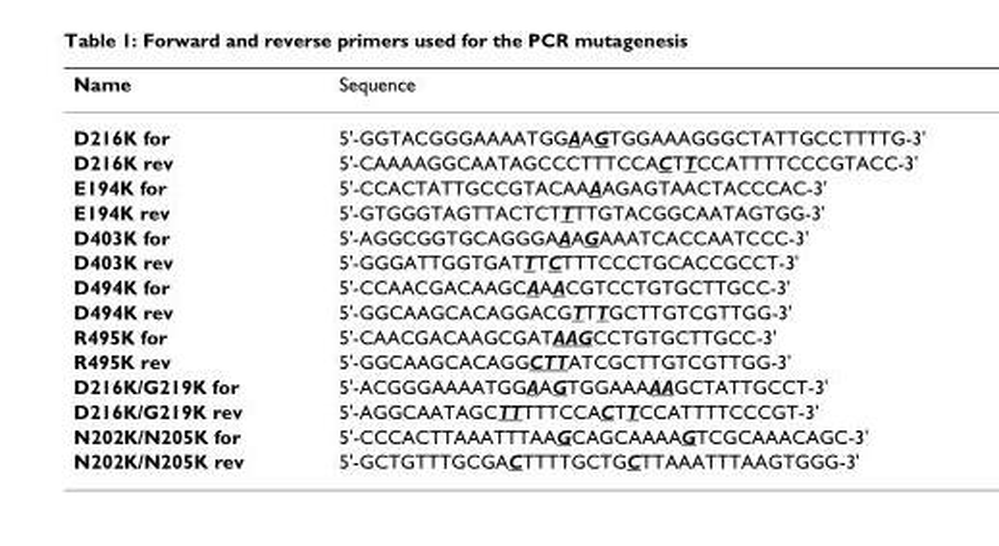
<table><thead><tr><td>Name</td><td>Sequence</td></tr></thead><tbody><tr><td>D216K for</td><td>5&#x27;-GGTACGGGAAAATGGAAGTGGAAAGGGCTATTGCCTTTTG-3&#x27;</td></tr><tr><td>D216K rev</td><td>5&#x27;-CAAAAGGCAATAGCCCTTTCCACTTCCATTTTCCCGTACC-3&#x27;</td></tr><tr><td>E194K for</td><td>5&#x27;-CCACTATTGCCGTACAAAAGAGTAACTACCCAC-3&#x27;</td></tr><tr><td>E194K rev</td><td>5&#x27;-GTGGGTAGTTACTCTTTTGTACGGCAATAGTGG-3&#x27;</td></tr><tr><td>D403K for</td><td>5&#x27;-AGGCGGTGCAGGGAAAGAAATCACCAATCCC-3&#x27;</td></tr><tr><td>D403K rev</td><td>5&#x27;-GGGATTGGTGATTTCTTTCCCTGCACCGCCT-3&#x27;</td></tr><tr><td>D494K for</td><td>5&#x27;-CCAACGACAAGCAAACGTCCTGTGCTTGCC-3&#x27;</td></tr><tr><td>D494K rev</td><td>5&#x27;-GGCAAGCACAGGACGTTTGCTTGTCGTTGG-3&#x27;</td></tr><tr><td>R495K for</td><td>5&#x27;-CAACGACAAGCGATAAGCCTGTGCTTGCC-3&#x27;</td></tr><tr><td>R495K rev</td><td>5&#x27;-GGCAAGCACAGGCTTATCGCTTGTCGTTGG-3&#x27;</td></tr><tr><td>D216K/G219K for</td><td>5&#x27;-ACGGGAAAATGGAAGTGGAAAAAGCTATTGCCT-3&#x27;</td></tr><tr><td>D216K/G219K rev</td><td>5&#x27;-AGGCAATAGCTTTTTCCACTTCCATTTTCCCGT-3&#x27;</td></tr><tr><td>N202K/N205K for</td><td>5&#x27;-CCCACTTAAATTTAAGCAGCAAAAGTCGCAAACAGC-3&#x27;</td></tr><tr><td>N202K/N205K rev</td><td>5&#x27;-GCTGTTTGCGACTTTTGCTGCTTAAATTTAAGTGGG-3&#x27;</td></tr></tbody></table>